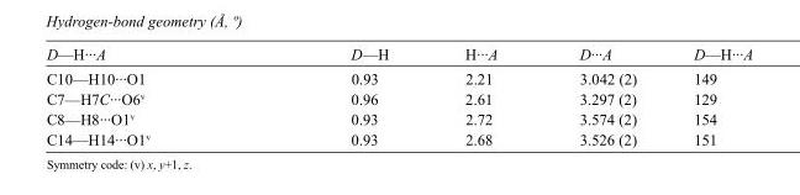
<table><tbody><tr><td>D—H···A</td><td>D—H</td><td>H···A</td><td>D···A</td><td>D—H···A</td></tr><tr><td>C10—H10···O1</td><td>0.93</td><td>2.21</td><td>3.042 (2)</td><td>149</td></tr><tr><td>C7—H7C···O6<sup>v</sup></td><td>0.96</td><td>2.61</td><td>3.297 (2)</td><td>129</td></tr><tr><td>C8—H8···O1<sup>v</sup></td><td>0.93</td><td>2.72</td><td>3.574 (2)</td><td>154</td></tr><tr><td>C14—H14···O1<sup>v</sup></td><td>0.93</td><td>2.68</td><td>3.526 (2)</td><td>151</td></tr></tbody></table>